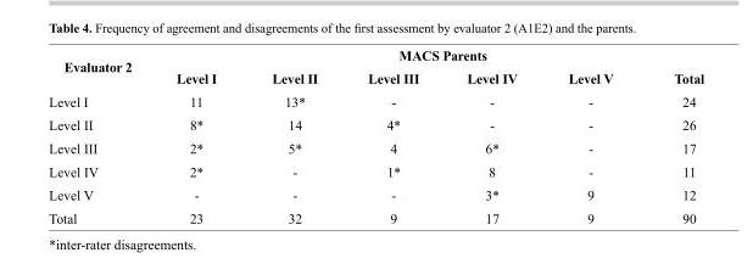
<table><thead><tr><td rowspan="2">Evaluator 2</td><td colspan="6">MACS Parents</td></tr><tr><td>Level I</td><td>Level II</td><td>Level III</td><td>Level IV</td><td>Level V</td><td>Total</td></tr></thead><tbody><tr><td>Level I</td><td>11</td><td>13*</td><td>-</td><td>-</td><td>-</td><td>24</td></tr><tr><td>Level II</td><td>8*</td><td>14</td><td>4*</td><td>-</td><td>-</td><td>26</td></tr><tr><td>Level III</td><td>2*</td><td>5*</td><td>4</td><td>6*</td><td>-</td><td>17</td></tr><tr><td>Level IV</td><td>2*</td><td>-</td><td>1*</td><td>8</td><td>-</td><td>11</td></tr><tr><td>Level V</td><td>-</td><td>-</td><td>-</td><td>3*</td><td>9</td><td>12</td></tr><tr><td>Total</td><td>23</td><td>32</td><td>9</td><td>17</td><td>9</td><td>90</td></tr></tbody></table>